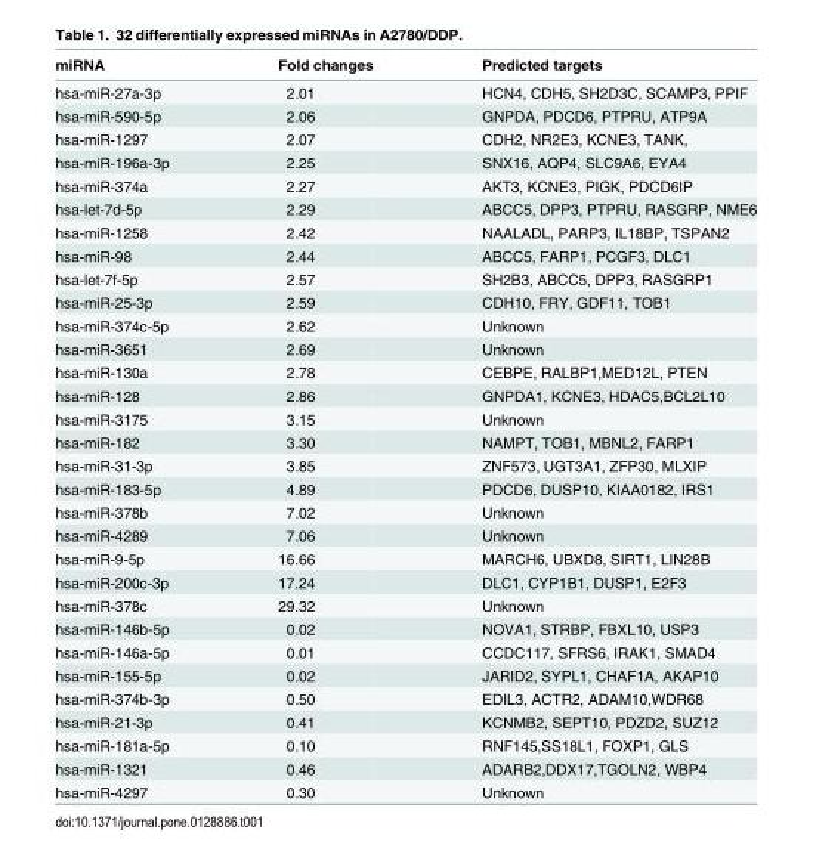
<table><thead><tr><td>miRNA</td><td>Fold changes</td><td>Predicted targets</td></tr></thead><tbody><tr><td>hsa-miR-27a-3p</td><td>2.01</td><td>HCN4, CDH5, SH2D3C, SCAMP3, PPIF</td></tr><tr><td>hsa-miR-590-5p</td><td>2.06</td><td>GNPDA, PDCD6, PTPRU, ATP9A</td></tr><tr><td>hsa-miR-1297</td><td>2.07</td><td>CDH2, NR2E3, KCNE3, TANK,</td></tr><tr><td>hsa-miR-196a-3p</td><td>2.25</td><td>SNX16, AQP4, SLC9A6, EYA4</td></tr><tr><td>hsa-miR-374a</td><td>2.27</td><td>AKT3, KCNE3, PIGK, PDCD6IP</td></tr><tr><td>hsa-let-7d-5p</td><td>2.29</td><td>ABCC5, DPP3, PTPRU, RASGRP, NME6</td></tr><tr><td>hsa-miR-1258</td><td>2.42</td><td>NAALADL, PARP3, IL18BP, TSPAN2</td></tr><tr><td>hsa-miR-98</td><td>2.44</td><td>ABCC5, FARP1, PCGF3, DLC1</td></tr><tr><td>hsa-let-7f-5p</td><td>2.57</td><td>SH2B3, ABCC5, DPP3, RASGRP1</td></tr><tr><td>hsa-miR-25-3p</td><td>2.59</td><td>CDH10, FRY, GDF11, TOB1</td></tr><tr><td>hsa-miR-374c-5p</td><td>2.62</td><td>Unknown</td></tr><tr><td>hsa-miR-3651</td><td>2.69</td><td>Unknown</td></tr><tr><td>hsa-miR-130a</td><td>2.78</td><td>CEBPE, RALBP1,MED12L, PTEN</td></tr><tr><td>hsa-miR-128</td><td>2.86</td><td>GNPDA1, KCNE3, HDAC5,BCL2L10</td></tr><tr><td>hsa-miR-3175</td><td>3.15</td><td>Unknown</td></tr><tr><td>hsa-miR-182</td><td>3.30</td><td>NAMPT, TOB1, MBNL2, FARP1</td></tr><tr><td>hsa-miR-31-3p</td><td>3.85</td><td>ZNF573, UGT3A1, ZFP30, MLXIP</td></tr><tr><td>hsa-miR-183-5p</td><td>4.89</td><td>PDCD6, DUSP10, KIAA0182, IRS1</td></tr><tr><td>hsa-miR-378b</td><td>7.02</td><td>Unknown</td></tr><tr><td>hsa-miR-4289</td><td>7.06</td><td>Unknown</td></tr><tr><td>hsa-miR-9-5p</td><td>16.66</td><td>MARCH6, UBXD8, SIRT1, LIN28B</td></tr><tr><td>hsa-miR-200c-3p</td><td>17.24</td><td>DLC1, CYP1B1, DUSP1, E2F3</td></tr><tr><td>hsa-miR-378c</td><td>29.32</td><td>Unknown</td></tr><tr><td>hsa-miR-146b-5p</td><td>0.02</td><td>NOVA1, STRBP, FBXL10, USP3</td></tr><tr><td>hsa-miR-146a-5p</td><td>0.01</td><td>CCDC117, SFRS6, IRAK1, SMAD4</td></tr><tr><td>hsa-miR-155-5p</td><td>0.02</td><td>JARID2, SYPL1, CHAF1A, AKAP10</td></tr><tr><td>hsa-miR-374b-3p</td><td>0.50</td><td>EDIL3, ACTR2, ADAM10,WDR68</td></tr><tr><td>hsa-miR-21-3p</td><td>0.41</td><td>KCNMB2, SEPT10, PDZD2, SUZ12</td></tr><tr><td>hsa-miR-181a-5p</td><td>0.10</td><td>RNF145,SS18L1, FOXP1, GLS</td></tr><tr><td>hsa-miR-1321</td><td>0.46</td><td>ADARB2,DDX17,TGOLN2, WBP4</td></tr><tr><td>hsa-miR-4297</td><td>0.30</td><td>Unknown</td></tr></tbody></table>